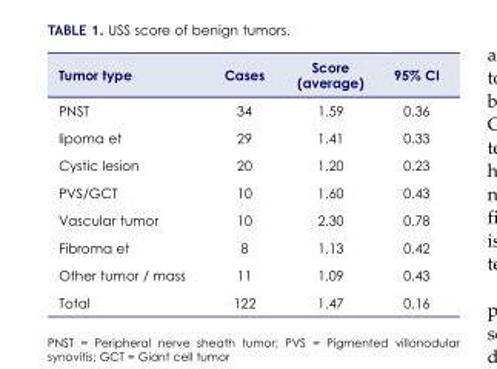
<table><thead><tr><td>Tumor type</td><td>Cases</td><td>Score (average)</td><td>95% CI</td></tr></thead><tbody><tr><td>PNST</td><td>34</td><td>1.59</td><td>0.36</td></tr><tr><td>lipoma et</td><td>29</td><td>1.41</td><td>0.33</td></tr><tr><td>Cystic lesion</td><td>20</td><td>1.20</td><td>0.23</td></tr><tr><td>PVS/GCT</td><td>10</td><td>1.60</td><td>0.43</td></tr><tr><td>Vascular tumor</td><td>10</td><td>2.30</td><td>0.78</td></tr><tr><td>Fibroma et</td><td>8</td><td>1.13</td><td>0.42</td></tr><tr><td>Other tumor / mass</td><td>11</td><td>1.09</td><td>0.43</td></tr><tr><td>Total</td><td>122</td><td>1.47</td><td>0.16</td></tr></tbody></table>